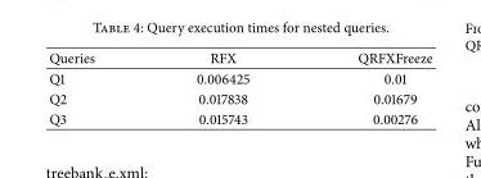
<table><thead><tr><td>Queries</td><td>RFX</td><td>QRFXFreeze</td></tr></thead><tbody><tr><td>Q1</td><td>0.006425</td><td>0.01</td></tr><tr><td>Q2</td><td>0.017838</td><td>0.01679</td></tr><tr><td>Q3</td><td>0.015743</td><td>0.00276</td></tr></tbody></table>